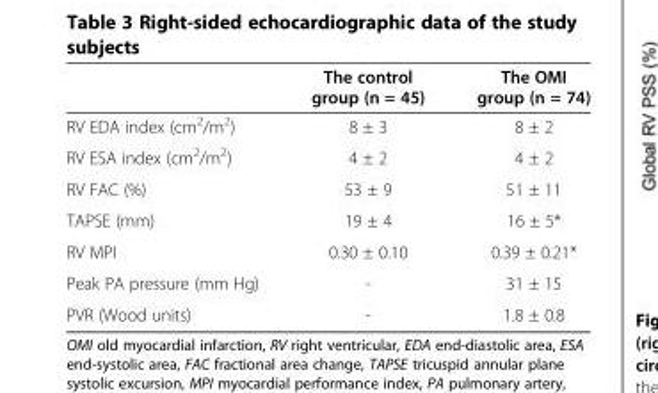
<table><thead><tr><td></td><td>The control group (n = 45)</td><td>The OMI group (n = 74)</td></tr></thead><tbody><tr><td>RV EDA index (cm<sup>2</sup>/m<sup>2</sup>)</td><td>8 ± 3</td><td>8 ± 2</td></tr><tr><td>RV ESA index (cm<sup>2</sup>/m<sup>2</sup>)</td><td>4 ± 2</td><td>4 ± 2</td></tr><tr><td>RV FAC (%)</td><td>53 ± 9</td><td>51 ± 11</td></tr><tr><td>TAPSE (mm)</td><td>19 ± 4</td><td>16 ± 5*</td></tr><tr><td>RV MPI</td><td>0.30 ± 0.10</td><td>0.39 ± 0.21*</td></tr><tr><td>Peak PA pressure (mm Hg)</td><td>-</td><td>31 ± 15</td></tr><tr><td>PVR (Wood units)</td><td>-</td><td>1.8 ± 0.8</td></tr></tbody></table>